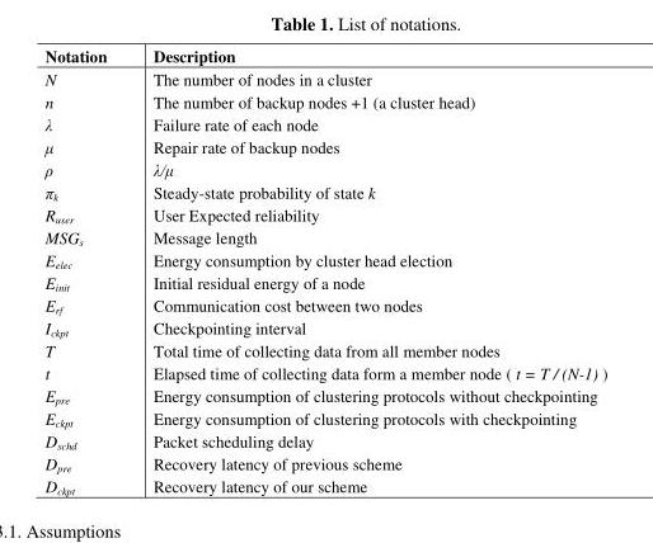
<table><thead><tr><td>Notation</td><td>Description</td></tr></thead><tbody><tr><td>N</td><td>The number of nodes in a cluster</td></tr><tr><td>n</td><td>The number of backup nodes +1 (a cluster head)</td></tr><tr><td>λ</td><td>Failure rate of each node</td></tr><tr><td>μ</td><td>Repair rate of backup nodes</td></tr><tr><td>ρ</td><td>λ/μ</td></tr><tr><td>π<sub>k</sub></td><td>Steady-state probability of state k</td></tr><tr><td>R<sub>user</sub></td><td>User Expected reliability</td></tr><tr><td>MSG<sub>s</sub></td><td>Message length</td></tr><tr><td>E<sub>elec</sub></td><td>Energy consumption by cluster head election</td></tr><tr><td>E<sub>init</sub></td><td>Initial residual energy of a node</td></tr><tr><td>E<sub>rf</sub></td><td>Communication cost between two nodes</td></tr><tr><td>I<sub>ckpt</sub></td><td>Checkpointing interval</td></tr><tr><td>T</td><td>Total time of collecting data from all member nodes</td></tr><tr><td>t</td><td>Elapsed time of collecting data form a member node ( t = T / (N-1) )</td></tr><tr><td>E<sub>pre</sub></td><td>Energy consumption of clustering protocols without checkpointing</td></tr><tr><td>E<sub>ckpt</sub></td><td>Energy consumption of clustering protocols with checkpointing</td></tr><tr><td>D<sub>schd</sub></td><td>Packet scheduling delay</td></tr><tr><td>D<sub>pre</sub></td><td>Recovery latency of previous scheme</td></tr><tr><td>D<sub>ckpt</sub></td><td>Recovery latency of our scheme</td></tr></tbody></table>